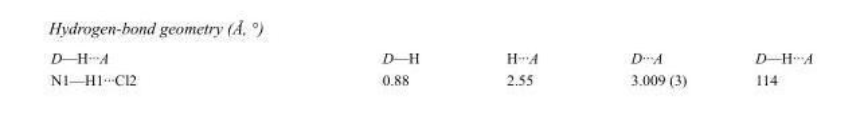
<table><tbody><tr><td>D—H···A</td><td>D—H</td><td>H···A</td><td>D···A</td><td>D—H···A</td></tr><tr><td>N1—H1···Cl2</td><td>0.88</td><td>2.55</td><td>3.009 (3)</td><td>114</td></tr></tbody></table>